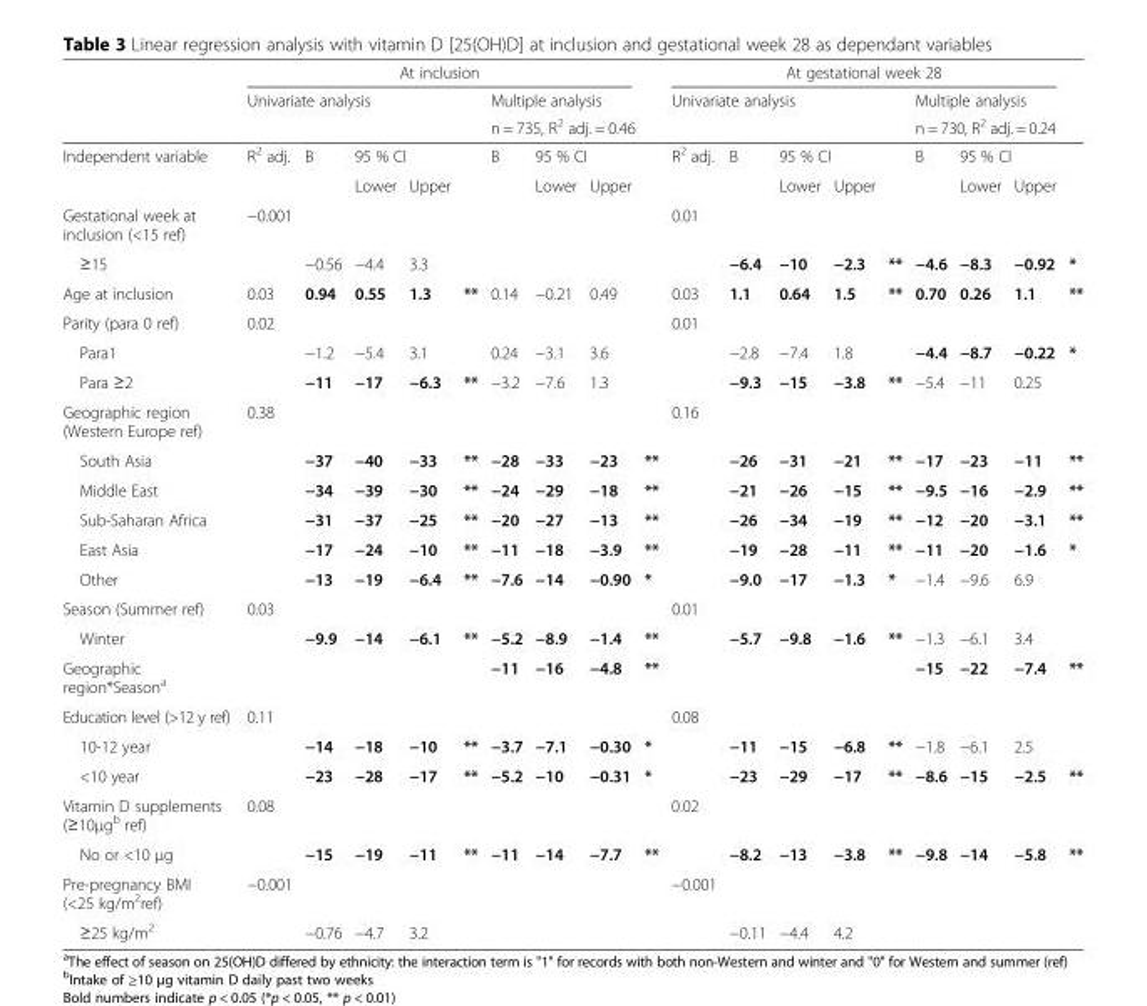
<table><thead><tr><td rowspan="5">Independent variable</td><td colspan="8">At inclusion</td><td></td><td colspan="8">At gestational week 28</td><td rowspan="5"></td></tr><tr><td colspan="4">Univariate analysis</td><td rowspan="4"></td><td rowspan="2" colspan="4">Multiple analysis n = 735, R<sup>2</sup> adj. = 0.46</td><td colspan="4">Univariate analysis</td><td rowspan="4"></td><td rowspan="2" colspan="3">Multiple analysis n = 730, R<sup>2</sup> adj. = 0.24</td></tr><tr><td rowspan="3">R<sup>2</sup> adj.</td><td rowspan="3">B</td><td></td><td></td><td rowspan="3">R<sup>2</sup> adj.</td><td rowspan="3">B</td><td></td><td></td></tr><tr><td colspan="2">95 % CI</td><td rowspan="2">B</td><td colspan="2">95 % CI</td><td rowspan="2"></td><td colspan="2">95 % CI</td><td rowspan="2">B</td><td colspan="2">95 % CI</td></tr><tr><td>Lower</td><td>Upper</td><td>Lower</td><td>Upper</td><td>Lower</td><td>Upper</td><td>Lower</td><td>Upper</td></tr></thead><tbody><tr><td>Gestational week at inclusion (&lt;15 ref)</td><td>−0.001</td><td></td><td></td><td></td><td></td><td></td><td></td><td></td><td></td><td>0.01</td><td></td><td></td><td></td><td></td><td></td><td></td><td></td><td></td></tr><tr><td>≥15</td><td></td><td>−0.56</td><td>−4.4</td><td>3.3</td><td></td><td></td><td></td><td></td><td></td><td></td><td>−6.4</td><td>−10</td><td>−2.3</td><td>**</td><td>−4.6</td><td>−8.3</td><td>−0.92</td><td>*</td></tr><tr><td>Age at inclusion</td><td>0.03</td><td>0.94</td><td>0.55</td><td>1.3</td><td>**</td><td>0.14</td><td>−0.21</td><td>0.49</td><td></td><td>0.03</td><td>1.1</td><td>0.64</td><td>1.5</td><td>**</td><td>0.70</td><td>0.26</td><td>1.1</td><td>**</td></tr><tr><td>Parity (para 0 ref)</td><td>0.02</td><td></td><td></td><td></td><td></td><td></td><td></td><td></td><td></td><td>0.01</td><td></td><td></td><td></td><td></td><td></td><td></td><td></td><td></td></tr><tr><td>Para1</td><td></td><td>−1.2</td><td>−5.4</td><td>3.1</td><td></td><td>0.24</td><td>−3.1</td><td>3.6</td><td></td><td></td><td>−2.8</td><td>−7.4</td><td>1.8</td><td></td><td>−4.4</td><td>−8.7</td><td>−0.22</td><td>*</td></tr><tr><td>Para ≥2</td><td></td><td>−11</td><td>−17</td><td>−6.3</td><td>**</td><td>−3.2</td><td>−7.6</td><td>1.3</td><td></td><td></td><td>−9.3</td><td>−15</td><td>−3.8</td><td>**</td><td>−5.4</td><td>−11</td><td>0.25</td><td></td></tr><tr><td>Geographic region (Western Europe ref)</td><td>0.38</td><td></td><td></td><td></td><td></td><td></td><td></td><td></td><td></td><td>0.16</td><td></td><td></td><td></td><td></td><td></td><td></td><td></td><td></td></tr><tr><td>South Asia</td><td></td><td>−37</td><td>−40</td><td>−33</td><td>**</td><td>−28</td><td>−33</td><td>−23</td><td>**</td><td></td><td>−26</td><td>−31</td><td>−21</td><td>**</td><td>−17</td><td>−23</td><td>−11</td><td>**</td></tr><tr><td>Middle East</td><td></td><td>−34</td><td>−39</td><td>−30</td><td>**</td><td>−24</td><td>−29</td><td>−18</td><td>**</td><td></td><td>−21</td><td>−26</td><td>−15</td><td>**</td><td>−9.5</td><td>−16</td><td>−2.9</td><td>**</td></tr><tr><td>Sub-Saharan Africa</td><td></td><td>−31</td><td>−37</td><td>−25</td><td>**</td><td>−20</td><td>−27</td><td>−13</td><td>**</td><td></td><td>−26</td><td>−34</td><td>−19</td><td>**</td><td>−12</td><td>−20</td><td>−3.1</td><td>**</td></tr><tr><td>East Asia</td><td></td><td>−17</td><td>−24</td><td>−10</td><td>**</td><td>−11</td><td>−18</td><td>−3.9</td><td>**</td><td></td><td>−19</td><td>−28</td><td>−11</td><td>**</td><td>−11</td><td>−20</td><td>−1.6</td><td>*</td></tr><tr><td>Other</td><td></td><td>−13</td><td>−19</td><td>−6.4</td><td>**</td><td>−7.6</td><td>−14</td><td>−0.90</td><td>*</td><td></td><td>−9.0</td><td>−17</td><td>−1.3</td><td>*</td><td>−1.4</td><td>−9.6</td><td>6.9</td><td></td></tr><tr><td>Season (Summer ref)</td><td>0.03</td><td></td><td></td><td></td><td></td><td></td><td></td><td></td><td></td><td>0.01</td><td></td><td></td><td></td><td></td><td></td><td></td><td></td><td></td></tr><tr><td>Winter</td><td></td><td>−9.9</td><td>−14</td><td>−6.1</td><td>**</td><td>−5.2</td><td>−8.9</td><td>−1.4</td><td>**</td><td></td><td>−5.7</td><td>−9.8</td><td>−1.6</td><td>**</td><td>−1.3</td><td>−6.1</td><td>3.4</td><td></td></tr><tr><td>Geographic region*Season<sup>a</sup></td><td></td><td></td><td></td><td></td><td></td><td>−11</td><td>−16</td><td>−4.8</td><td>**</td><td></td><td></td><td></td><td></td><td></td><td>−15</td><td>−22</td><td>−7.4</td><td>**</td></tr><tr><td>Education level (&gt;12 y ref)</td><td>0.11</td><td></td><td></td><td></td><td></td><td></td><td></td><td></td><td></td><td>0.08</td><td></td><td></td><td></td><td></td><td></td><td></td><td></td><td></td></tr><tr><td>10-12 year</td><td></td><td>−14</td><td>−18</td><td>−10</td><td>**</td><td>−3.7</td><td>−7.1</td><td>−0.30</td><td>*</td><td></td><td>−11</td><td>−15</td><td>−6.8</td><td>**</td><td>−1.8</td><td>−6.1</td><td>2.5</td><td></td></tr><tr><td>&lt;10 year</td><td></td><td>−23</td><td>−28</td><td>−17</td><td>**</td><td>−5.2</td><td>−10</td><td>−0.31</td><td>*</td><td></td><td>−23</td><td>−29</td><td>−17</td><td>**</td><td>−8.6</td><td>−15</td><td>−2.5</td><td>**</td></tr><tr><td>Vitamin D supplements (≥10μg<sup>b</sup> ref)</td><td>0.08</td><td></td><td></td><td></td><td></td><td></td><td></td><td></td><td></td><td>0.02</td><td></td><td></td><td></td><td></td><td></td><td></td><td></td><td></td></tr><tr><td>No or &lt;10 μg</td><td></td><td>−15</td><td>−19</td><td>−11</td><td>**</td><td>−11</td><td>−14</td><td>−7.7</td><td>**</td><td></td><td>−8.2</td><td>−13</td><td>−3.8</td><td>**</td><td>−9.8</td><td>−14</td><td>−5.8</td><td>**</td></tr><tr><td>Pre-pregnancy BMI (&lt;25 kg/m<sup>2</sup>ref)</td><td>−0.001</td><td></td><td></td><td></td><td></td><td></td><td></td><td></td><td></td><td>−0.001</td><td></td><td></td><td></td><td></td><td></td><td></td><td></td><td></td></tr><tr><td>≥25 kg/m2</td><td></td><td>−0.76</td><td>−4.7</td><td>3.2</td><td></td><td></td><td></td><td></td><td></td><td></td><td>−0.11</td><td>−4.4</td><td>4.2</td><td></td><td></td><td></td><td></td><td></td></tr></tbody></table>